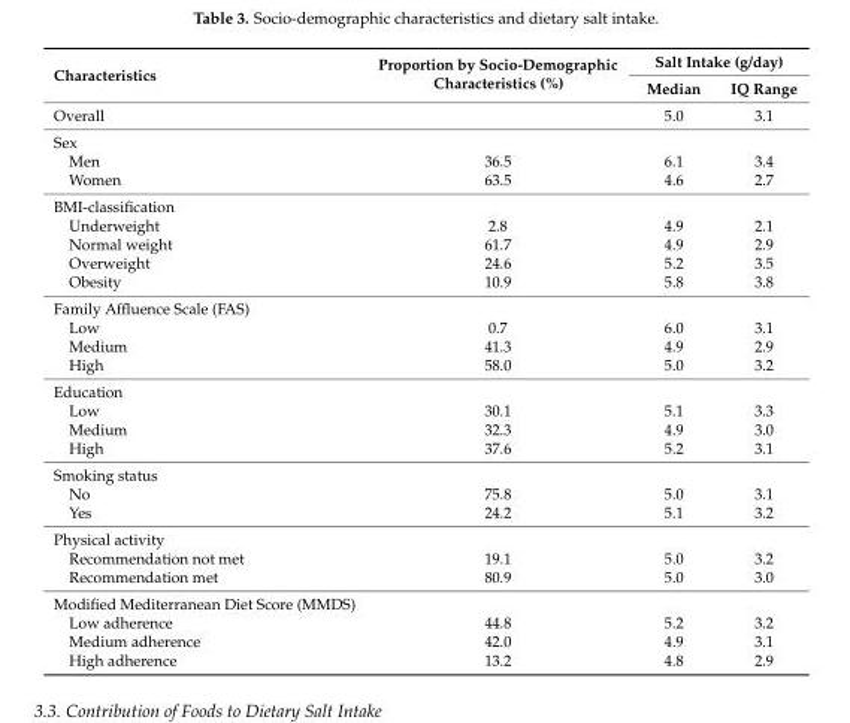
<table><thead><tr><td rowspan="2">Characteristics</td><td rowspan="2">Proportion by Socio-Demographic Characteristics (%)</td><td colspan="2">Salt Intake (g/day)</td></tr><tr><td>Median</td><td>IQ Range</td></tr></thead><tbody><tr><td>Overall</td><td></td><td>5.0</td><td>3.1</td></tr><tr><td colspan="4">Sex</td></tr><tr><td>Men</td><td>36.5</td><td>6.1</td><td>3.4</td></tr><tr><td>Women</td><td>63.5</td><td>4.6</td><td>2.7</td></tr><tr><td colspan="4">BMI-classification</td></tr><tr><td>Underweight</td><td>2.8</td><td>4.9</td><td>2.1</td></tr><tr><td>Normal weight</td><td>61.7</td><td>4.9</td><td>2.9</td></tr><tr><td>Overweight</td><td>24.6</td><td>5.2</td><td>3.5</td></tr><tr><td>Obesity</td><td>10.9</td><td>5.8</td><td>3.8</td></tr><tr><td colspan="4">Family Affluence Scale (FAS)</td></tr><tr><td>Low</td><td>0.7</td><td>6.0</td><td>3.1</td></tr><tr><td>Medium</td><td>41.3</td><td>4.9</td><td>2.9</td></tr><tr><td>High</td><td>58.0</td><td>5.0</td><td>3.2</td></tr><tr><td colspan="4">Education</td></tr><tr><td>Low</td><td>30.1</td><td>5.1</td><td>3.3</td></tr><tr><td>Medium</td><td>32.3</td><td>4.9</td><td>3.0</td></tr><tr><td>High</td><td>37.6</td><td>5.2</td><td>3.1</td></tr><tr><td colspan="4">Smoking status</td></tr><tr><td>No</td><td>75.8</td><td>5.0</td><td>3.1</td></tr><tr><td>Yes</td><td>24.2</td><td>5.1</td><td>3.2</td></tr><tr><td colspan="4">Physical activity</td></tr><tr><td>Recommendation not met</td><td>19.1</td><td>5.0</td><td>3.2</td></tr><tr><td>Recommendation met</td><td>80.9</td><td>5.0</td><td>3.0</td></tr><tr><td colspan="4">Modified Mediterranean Diet Score (MMDS)</td></tr><tr><td>Low adherence</td><td>44.8</td><td>5.2</td><td>3.2</td></tr><tr><td>Medium adherence</td><td>42.0</td><td>4.9</td><td>3.1</td></tr><tr><td>High adherence</td><td>13.2</td><td>4.8</td><td>2.9</td></tr></tbody></table>